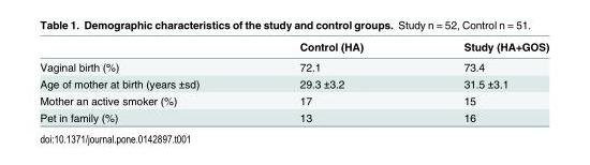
<table><thead><tr><td></td><td>Control (HA)</td><td>Study (HA+GOS)</td></tr></thead><tbody><tr><td>Vaginal birth (%)</td><td>72.1</td><td>73.4</td></tr><tr><td>Age of mother at birth (years ±sd)</td><td>29.3 ±3.2</td><td>31.5 ±3.1</td></tr><tr><td>Mother an active smoker (%)</td><td>17</td><td>15</td></tr><tr><td>Pet in family (%)</td><td>13</td><td>16</td></tr></tbody></table>